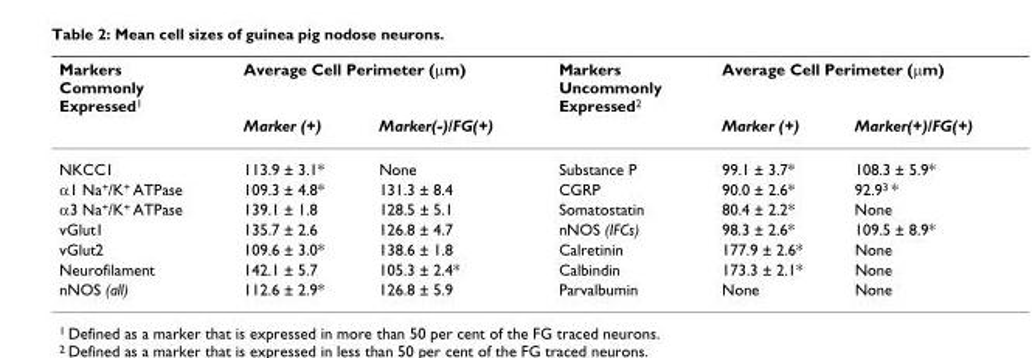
<table><thead><tr><td rowspan="2">Markers Commonly Expressed<sup>1</sup></td><td colspan="2">Average Cell Perimeter (μm)</td><td rowspan="2">Markers Uncommonly Expressed<sup>2</sup></td><td colspan="2">Average Cell Perimeter (μm)</td></tr><tr><td>Marker (+)</td><td>Marker(-)/FG(+)</td><td>Marker (+)</td><td>Marker(+)/FG(+)</td></tr></thead><tbody><tr><td>NKCC1</td><td>113.9 ± 3.1*</td><td>None</td><td>Substance P</td><td>99.1 ± 3.7*</td><td>108.3 ± 5.9*</td></tr><tr><td>α1 Na<sup>+</sup>/K<sup>+</sup> ATPase</td><td>109.3 ± 4.8*</td><td>131.3 ± 8.4</td><td>CGRP</td><td>90.0 ± 2.6*</td><td>92.9<sup>3</sup> *</td></tr><tr><td>α3 Na<sup>+</sup>/K<sup>+</sup> ATPase</td><td>139.1 ± 1.8</td><td>128.5 ± 5.1</td><td>Somatostatin</td><td>80.4 ± 2.2*</td><td>None</td></tr><tr><td>vGlut1</td><td>135.7 ± 2.6</td><td>126.8 ± 4.7</td><td>nNOS (IFCs)</td><td>98.3 ± 2.6*</td><td>109.5 ± 8.9*</td></tr><tr><td>vGlut2</td><td>109.6 ± 3.0*</td><td>138.6 ± 1.8</td><td>Calretinin</td><td>177.9 ± 2.6*</td><td>None</td></tr><tr><td>Neurofilament</td><td>142.1 ± 5.7</td><td>105.3 ± 2.4*</td><td>Calbindin</td><td>173.3 ± 2.1*</td><td>None</td></tr><tr><td>nNOS (all)</td><td>112.6 ± 2.9*</td><td>126.8 ± 5.9</td><td>Parvalbumin</td><td>None</td><td>None</td></tr></tbody></table>